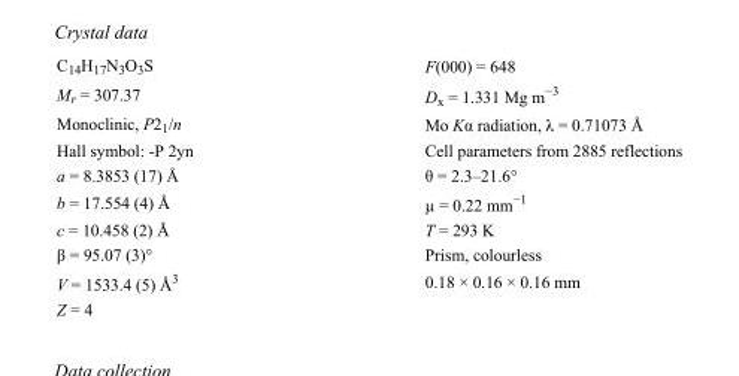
<table><tbody><tr><td>C<sub>14</sub>H<sub>17</sub>N<sub>3</sub>O<sub>3</sub>S</td><td>F(000) = 648</td></tr><tr><td>M<sub>r</sub> = 307.37</td><td>D<sub>x</sub> = 1.331 Mg m<sup>−3</sup></td></tr><tr><td>Monoclinic, P2<sub>1</sub>/n</td><td>Mo Kα radiation, λ = 0.71073 Å</td></tr><tr><td>Hall symbol: -P 2yn</td><td>Cell parameters from 2885 reflections</td></tr><tr><td>a = 8.3853 (17) Å</td><td>θ = 2.3–21.6°</td></tr><tr><td>b = 17.554 (4) Å</td><td>µ = 0.22 mm<sup>−1</sup></td></tr><tr><td>c = 10.458 (2) Å</td><td>T = 293 K</td></tr><tr><td>β = 95.07 (3)°</td><td>Prism, colourless</td></tr><tr><td>V = 1533.4 (5) Å<sup>3</sup></td><td>0.18 × 0.16 × 0.16 mm</td></tr><tr><td>Z = 4</td><td></td></tr></tbody></table>